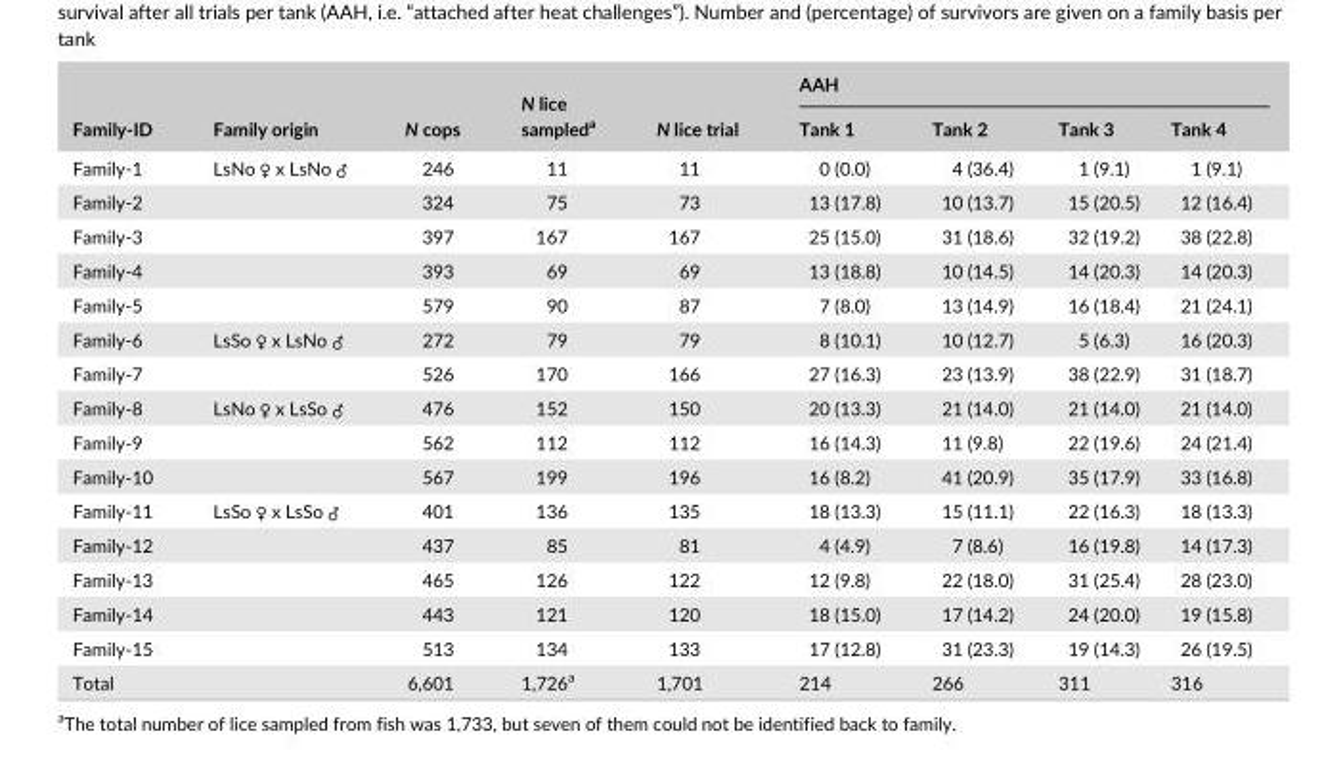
<table><thead><tr><td rowspan="2">Family- ID</td><td rowspan="2">Family origin</td><td rowspan="2">N cops</td><td rowspan="2">N lice sampled<sup>a</sup></td><td rowspan="2">N lice trial</td><td colspan="4">AAH</td></tr><tr><td>Tank 1</td><td>Tank 2</td><td>Tank 3</td><td>Tank 4</td></tr></thead><tbody><tr><td>Family- 1</td><td>LsNo ♀ x LsNo ♂</td><td>246</td><td>11</td><td>11</td><td>0 (0.0)</td><td>4 (36.4)</td><td>1 (9.1)</td><td>1 (9.1)</td></tr><tr><td>Family- 2</td><td></td><td>324</td><td>75</td><td>73</td><td>13 (17.8)</td><td>10 (13.7)</td><td>15 (20.5)</td><td>12 (16.4)</td></tr><tr><td>Family- 3</td><td></td><td>397</td><td>167</td><td>167</td><td>25 (15.0)</td><td>31 (18.6)</td><td>32 (19.2)</td><td>38 (22.8)</td></tr><tr><td>Family- 4</td><td></td><td>393</td><td>69</td><td>69</td><td>13 (18.8)</td><td>10 (14.5)</td><td>14 (20.3)</td><td>14 (20.3)</td></tr><tr><td>Family- 5</td><td></td><td>579</td><td>90</td><td>87</td><td>7 (8.0)</td><td>13 (14.9)</td><td>16 (18.4)</td><td>21 (24.1)</td></tr><tr><td>Family- 6</td><td>LsSo ♀ x LsNo ♂</td><td>272</td><td>79</td><td>79</td><td>8 (10.1)</td><td>10 (12.7)</td><td>5 (6.3)</td><td>16 (20.3)</td></tr><tr><td>Family- 7</td><td></td><td>526</td><td>170</td><td>166</td><td>27 (16.3)</td><td>23 (13.9)</td><td>38 (22.9)</td><td>31 (18.7)</td></tr><tr><td>Family- 8</td><td>LsNo ♀ x LsSo ♂</td><td>476</td><td>152</td><td>150</td><td>20 (13.3)</td><td>21 (14.0)</td><td>21 (14.0)</td><td>21 (14.0)</td></tr><tr><td>Family- 9</td><td></td><td>562</td><td>112</td><td>112</td><td>16 (14.3)</td><td>11 (9.8)</td><td>22 (19.6)</td><td>24 (21.4)</td></tr><tr><td>Family- 10</td><td></td><td>567</td><td>199</td><td>196</td><td>16 (8.2)</td><td>41 (20.9)</td><td>35 (17.9)</td><td>33 (16.8)</td></tr><tr><td>Family- 11</td><td>LsSo ♀ x LsSo ♂</td><td>401</td><td>136</td><td>135</td><td>18 (13.3)</td><td>15 (11.1)</td><td>22 (16.3)</td><td>18 (13.3)</td></tr><tr><td>Family- 12</td><td></td><td>437</td><td>85</td><td>81</td><td>4 (4.9)</td><td>7 (8.6)</td><td>16 (19.8)</td><td>14 (17.3)</td></tr><tr><td>Family- 13</td><td></td><td>465</td><td>126</td><td>122</td><td>12 (9.8)</td><td>22 (18.0)</td><td>31 (25.4)</td><td>28 (23.0)</td></tr><tr><td>Family- 14</td><td></td><td>443</td><td>121</td><td>120</td><td>18 (15.0)</td><td>17 (14.2)</td><td>24 (20.0)</td><td>19 (15.8)</td></tr><tr><td>Family- 15</td><td></td><td>513</td><td>134</td><td>133</td><td>17 (12.8)</td><td>31 (23.3)</td><td>19 (14.3)</td><td>26 (19.5)</td></tr><tr><td colspan="2">Total</td><td>6,601</td><td>1,726<sup>a</sup></td><td>1,701</td><td>214</td><td>266</td><td>311</td><td>316</td></tr></tbody></table>